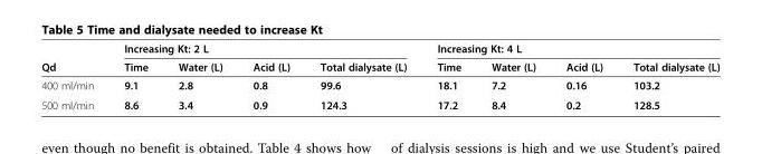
<table><thead><tr><td rowspan="2">Qd</td><td colspan="4">Increasing Kt: 2 L</td><td colspan="4">Increasing Kt: 4 L</td></tr><tr><td>Time</td><td>Water (L)</td><td>Acid (L)</td><td>Total dialysate (L)</td><td>Time</td><td>Water (L)</td><td>Acid (L)</td><td>Total dialysate (L)</td></tr></thead><tbody><tr><td>400 ml/min</td><td>9.1</td><td>2.8</td><td>0.8</td><td>99.6</td><td>18.1</td><td>7.2</td><td>0.16</td><td>103.2</td></tr><tr><td>500 ml/min</td><td>8.6</td><td>3.4</td><td>0.9</td><td>124.3</td><td>17.2</td><td>8.4</td><td>0.2</td><td>128.5</td></tr></tbody></table>